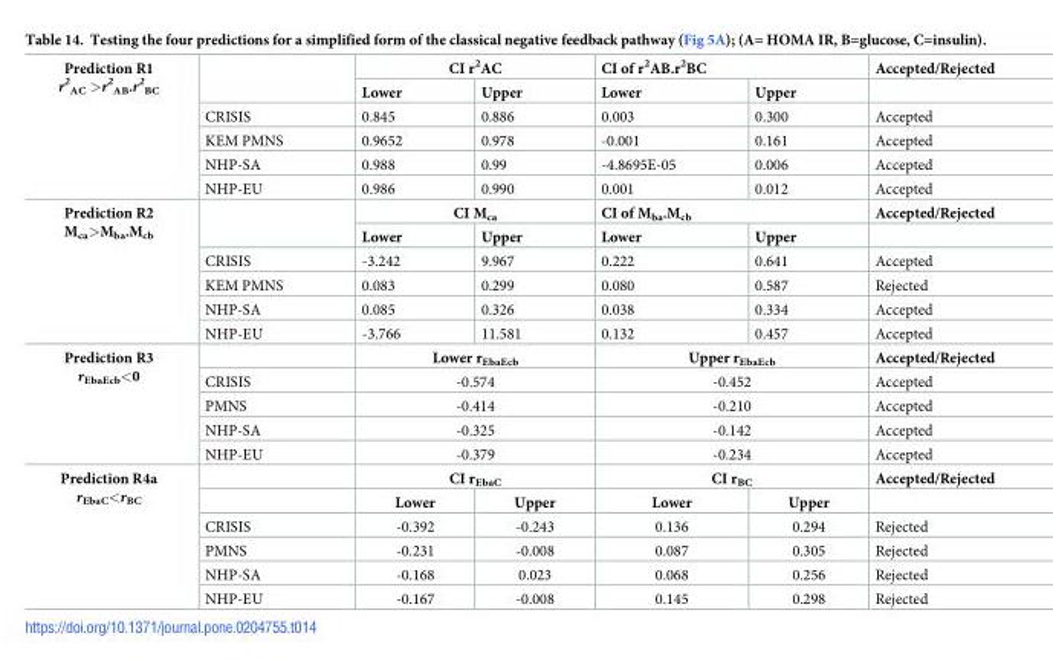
<table><tbody><tr><td rowspan="6">Prediction R1 r2 AC &gt;r2 AB.r2 BC</td><td rowspan="2"></td><td colspan="2">CI r<sup>2</sup>AC</td><td colspan="2">CI of r<sup>2</sup>AB.r<sup>2</sup>BC</td><td>Accepted/Rejected</td></tr><tr><td>Lower</td><td>Upper</td><td>Lower</td><td>Upper</td><td></td></tr><tr><td>CRISIS</td><td>0.845</td><td>0.886</td><td>0.003</td><td>0.300</td><td>Accepted</td></tr><tr><td>KEM PMNS</td><td>0.9652</td><td>0.978</td><td>-0.001</td><td>0.161</td><td>Accepted</td></tr><tr><td>NHP-SA</td><td>0.988</td><td>0.99</td><td>-4.8695E-05</td><td>0.006</td><td>Accepted</td></tr><tr><td>NHP-EU</td><td>0.986</td><td>0.990</td><td>0.001</td><td>0.012</td><td>Accepted</td></tr><tr><td rowspan="6">Prediction R2 M<sub>ca</sub>&gt;M<sub>ba</sub>.M<sub>cb</sub></td><td rowspan="2"></td><td colspan="2">CI M<sub>ca</sub></td><td colspan="2">CI of M<sub>ba</sub>.M<sub>cb</sub></td><td>Accepted/Rejected</td></tr><tr><td>Lower</td><td>Upper</td><td>Lower</td><td>Upper</td><td></td></tr><tr><td>CRISIS</td><td>-3.242</td><td>9.967</td><td>0.222</td><td>0.641</td><td>Accepted</td></tr><tr><td>KEM PMNS</td><td>0.083</td><td>0.299</td><td>0.080</td><td>0.587</td><td>Rejected</td></tr><tr><td>NHP-SA</td><td>0.085</td><td>0.326</td><td>0.038</td><td>0.334</td><td>Accepted</td></tr><tr><td>NHP-EU</td><td>-3.766</td><td>11.581</td><td>0.132</td><td>0.457</td><td>Accepted</td></tr><tr><td rowspan="5">Prediction R3 r<sub>EbaEcb</sub>&lt;0</td><td></td><td colspan="2">Lower r<sub>EbaEcb</sub></td><td colspan="2">Upper r<sub>EbaEcb</sub></td><td>Accepted/Rejected</td></tr><tr><td>CRISIS</td><td colspan="2">-0.574</td><td colspan="2">-0.452</td><td>Accepted</td></tr><tr><td>PMNS</td><td colspan="2">-0.414</td><td colspan="2">-0.210</td><td>Accepted</td></tr><tr><td>NHP-SA</td><td colspan="2">-0.325</td><td colspan="2">-0.142</td><td>Accepted</td></tr><tr><td>NHP-EU</td><td colspan="2">-0.379</td><td colspan="2">-0.234</td><td>Accepted</td></tr><tr><td rowspan="6">Prediction R4a r<sub>EbaC</sub>&lt;r<sub>BC</sub></td><td></td><td colspan="2">CI r<sub>EbaC</sub></td><td colspan="2">CI r<sub>BC</sub></td><td>Accepted/Rejected</td></tr><tr><td></td><td>Lower</td><td>Upper</td><td>Lower</td><td>Upper</td><td></td></tr><tr><td>CRISIS</td><td>-0.392</td><td>-0.243</td><td>0.136</td><td>0.294</td><td>Rejected</td></tr><tr><td>PMNS</td><td>-0.231</td><td>-0.008</td><td>0.087</td><td>0.305</td><td>Rejected</td></tr><tr><td>NHP-SA</td><td>-0.168</td><td>0.023</td><td>0.068</td><td>0.256</td><td>Rejected</td></tr><tr><td>NHP-EU</td><td>-0.167</td><td>-0.008</td><td>0.145</td><td>0.298</td><td>Rejected</td></tr></tbody></table>